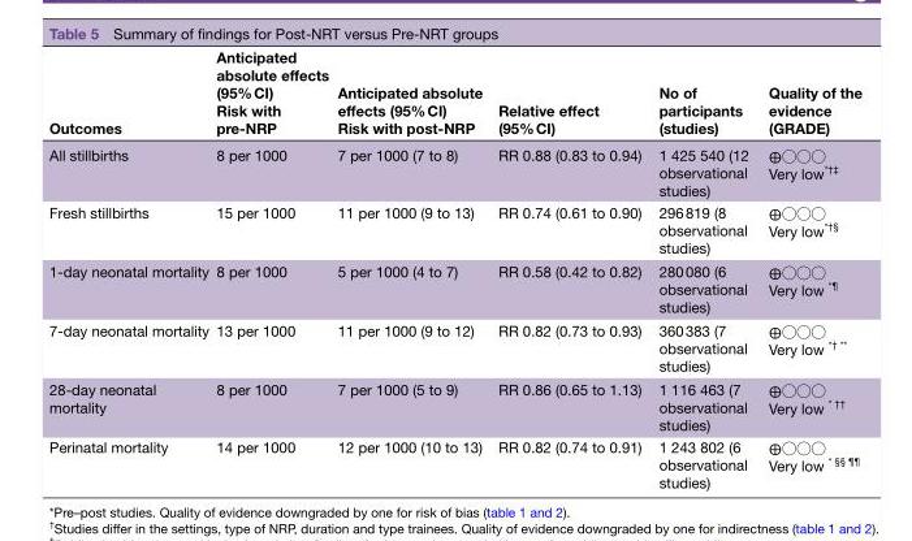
<table><thead><tr><td>Outcomes</td><td>Anticipated absolute effects (95% CI) Risk with pre-NRP</td><td>Anticipated absolute effects (95% CI) Risk with post-NRP</td><td>Relative effect (95% CI)</td><td>No of participants (studies)</td><td>Quality of the evidence (GRADE)</td></tr></thead><tbody><tr><td>All stillbirths</td><td>8 per 1000</td><td>7 per 1000 (7 to 8)</td><td>RR 0.88 (0.83 to 0.94)</td><td>1 425 540 (12 observational studies)</td><td>⨁◯◯◯ Very low<sup>*†‡</sup></td></tr><tr><td>Fresh stillbirths</td><td>15 per 1000</td><td>11 per 1000 (9 to 13)</td><td>RR 0.74 (0.61 to 0.90)</td><td>296 819 (8 observational studies)</td><td>⨁◯◯◯ Very low<sup>*†§</sup></td></tr><tr><td>1-day neonatal mortality</td><td>8 per 1000</td><td>5 per 1000 (4 to 7)</td><td>RR 0.58 (0.42 to 0.82)</td><td>280 080 (6 observational studies)</td><td>⨁◯◯◯ Very low <sup>*¶</sup></td></tr><tr><td>7-day neonatal mortality</td><td>13 per 1000</td><td>11 per 1000 (9 to 12)</td><td>RR 0.82 (0.73 to 0.93)</td><td>360 383 (7 observational studies)</td><td>⨁◯◯◯ Very low <sup>*† **</sup></td></tr><tr><td>28-day neonatal mortality</td><td>8 per 1000</td><td>7 per 1000 (5 to 9)</td><td>RR 0.86 (0.65 to 1.13)</td><td>1 116 463 (7 observational studies)</td><td>⨁◯◯◯ Very low <sup>* ††</sup></td></tr><tr><td>Perinatal mortality</td><td>14 per 1000</td><td>12 per 1000 (10 to 13)</td><td>RR 0.82 (0.74 to 0.91)</td><td>1 243 802 (6 observational studies)</td><td>⨁◯◯◯ Very low <sup>* §§ ¶¶</sup></td></tr></tbody></table>